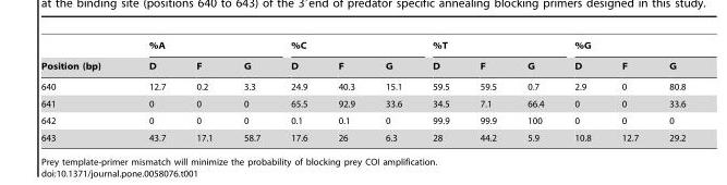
<table><thead><tr><td rowspan="2">Position (bp)</td><td colspan="3">%A</td><td colspan="3">%C</td><td colspan="3">%T</td><td colspan="3">%G</td></tr><tr><td>D</td><td>F</td><td>G</td><td>D</td><td>F</td><td>G</td><td>D</td><td>F</td><td>G</td><td>D</td><td>F</td><td>G</td></tr></thead><tbody><tr><td>640</td><td>12.7</td><td>0.2</td><td>3.3</td><td>24.9</td><td>40.3</td><td>15.1</td><td>59.5</td><td>59.5</td><td>0.7</td><td>2.9</td><td>0</td><td>80.8</td></tr><tr><td>641</td><td>0</td><td>0</td><td>0</td><td>65.5</td><td>92.9</td><td>33.6</td><td>34.5</td><td>7.1</td><td>66.4</td><td>0</td><td>0</td><td>33.6</td></tr><tr><td>642</td><td>0</td><td>0</td><td>0</td><td>0.1</td><td>0.1</td><td>0</td><td>99.9</td><td>99.9</td><td>100</td><td>0</td><td>0</td><td>0</td></tr><tr><td>643</td><td>43.7</td><td>17.1</td><td>58.7</td><td>17.6</td><td>26</td><td>6.3</td><td>28</td><td>44.2</td><td>5.9</td><td>10.8</td><td>12.7</td><td>29.2</td></tr></tbody></table>